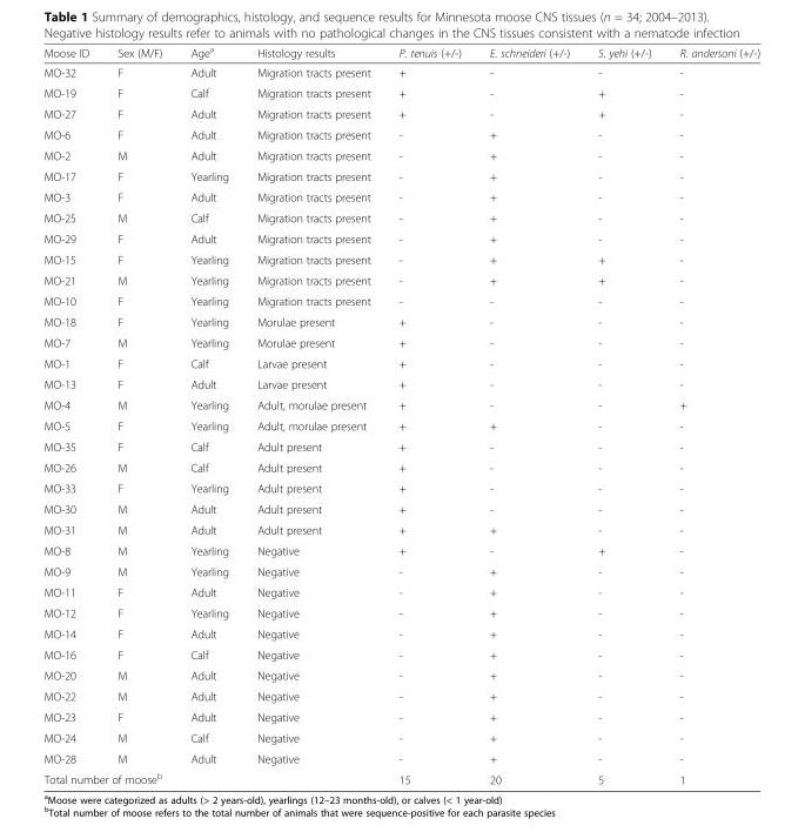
<table><thead><tr><td>Moose ID</td><td>Sex (M/F)</td><td>Age<sup>a</sup></td><td>Histology results</td><td>P. tenuis (+/-)</td><td>E. schneideri (+/-)</td><td>S. yehi (+/-)</td><td>R. andersoni (+/-)</td></tr></thead><tbody><tr><td>MO-32</td><td>F</td><td>Adult</td><td>Migration tracts present</td><td>+</td><td>-</td><td>-</td><td>-</td></tr><tr><td>MO-19</td><td>F</td><td>Calf</td><td>Migration tracts present</td><td>+</td><td>-</td><td>+</td><td>-</td></tr><tr><td>MO-27</td><td>F</td><td>Adult</td><td>Migration tracts present</td><td>+</td><td>-</td><td>+</td><td>-</td></tr><tr><td>MO-6</td><td>F</td><td>Adult</td><td>Migration tracts present</td><td>-</td><td>+</td><td>-</td><td>-</td></tr><tr><td>MO-2</td><td>M</td><td>Adult</td><td>Migration tracts present</td><td>-</td><td>+</td><td>-</td><td>-</td></tr><tr><td>MO-17</td><td>F</td><td>Yearling</td><td>Migration tracts present</td><td>-</td><td>+</td><td>-</td><td>-</td></tr><tr><td>MO-3</td><td>F</td><td>Adult</td><td>Migration tracts present</td><td>-</td><td>+</td><td>-</td><td>-</td></tr><tr><td>MO-25</td><td>M</td><td>Calf</td><td>Migration tracts present</td><td>-</td><td>+</td><td>-</td><td>-</td></tr><tr><td>MO-29</td><td>F</td><td>Adult</td><td>Migration tracts present</td><td>-</td><td>+</td><td>-</td><td>-</td></tr><tr><td>MO-15</td><td>F</td><td>Yearling</td><td>Migration tracts present</td><td>-</td><td>+</td><td>+</td><td>-</td></tr><tr><td>MO-21</td><td>M</td><td>Yearling</td><td>Migration tracts present</td><td>-</td><td>+</td><td>+</td><td>-</td></tr><tr><td>MO-10</td><td>F</td><td>Yearling</td><td>Migration tracts present</td><td>-</td><td>-</td><td>-</td><td>-</td></tr><tr><td>MO-18</td><td>F</td><td>Yearling</td><td>Morulae present</td><td>+</td><td>-</td><td>-</td><td>-</td></tr><tr><td>MO-7</td><td>M</td><td>Yearling</td><td>Morulae present</td><td>+</td><td>-</td><td>-</td><td>-</td></tr><tr><td>MO-1</td><td>F</td><td>Calf</td><td>Larvae present</td><td>+</td><td>-</td><td>-</td><td>-</td></tr><tr><td>MO-13</td><td>F</td><td>Adult</td><td>Larvae present</td><td>+</td><td>-</td><td>-</td><td>-</td></tr><tr><td>MO-4</td><td>M</td><td>Yearling</td><td>Adult, morulae present</td><td>+</td><td>-</td><td>-</td><td>+</td></tr><tr><td>MO-5</td><td>F</td><td>Yearling</td><td>Adult, morulae present</td><td>+</td><td>+</td><td>-</td><td>-</td></tr><tr><td>MO-35</td><td>F</td><td>Calf</td><td>Adult present</td><td>+</td><td>-</td><td>-</td><td>-</td></tr><tr><td>MO-26</td><td>M</td><td>Calf</td><td>Adult present</td><td>+</td><td>-</td><td>-</td><td>-</td></tr><tr><td>MO-33</td><td>F</td><td>Yearling</td><td>Adult present</td><td>+</td><td>-</td><td>-</td><td>-</td></tr><tr><td>MO-30</td><td>M</td><td>Adult</td><td>Adult present</td><td>+</td><td>-</td><td>-</td><td>-</td></tr><tr><td>MO-31</td><td>M</td><td>Adult</td><td>Adult present</td><td>+</td><td>+</td><td>-</td><td>-</td></tr><tr><td>MO-8</td><td>M</td><td>Yearling</td><td>Negative</td><td>+</td><td>-</td><td>+</td><td>-</td></tr><tr><td>MO-9</td><td>M</td><td>Yearling</td><td>Negative</td><td>-</td><td>+</td><td>-</td><td>-</td></tr><tr><td>MO-11</td><td>F</td><td>Adult</td><td>Negative</td><td>-</td><td>+</td><td>-</td><td>-</td></tr><tr><td>MO-12</td><td>F</td><td>Yearling</td><td>Negative</td><td>-</td><td>+</td><td>-</td><td>-</td></tr><tr><td>MO-14</td><td>F</td><td>Adult</td><td>Negative</td><td>-</td><td>+</td><td>-</td><td>-</td></tr><tr><td>MO-16</td><td>F</td><td>Calf</td><td>Negative</td><td>-</td><td>+</td><td>-</td><td>-</td></tr><tr><td>MO-20</td><td>M</td><td>Adult</td><td>Negative</td><td>-</td><td>+</td><td>-</td><td>-</td></tr><tr><td>MO-22</td><td>M</td><td>Adult</td><td>Negative</td><td>-</td><td>+</td><td>-</td><td>-</td></tr><tr><td>MO-23</td><td>F</td><td>Adult</td><td>Negative</td><td>-</td><td>+</td><td>-</td><td>-</td></tr><tr><td>MO-24</td><td>M</td><td>Calf</td><td>Negative</td><td>-</td><td>+</td><td>-</td><td>-</td></tr><tr><td>MO-28</td><td>M</td><td>Adult</td><td>Negative</td><td>-</td><td>+</td><td>-</td><td>-</td></tr><tr><td colspan="4">Total number of moose<sup>b</sup></td><td>15</td><td>20</td><td>5</td><td>1</td></tr></tbody></table>